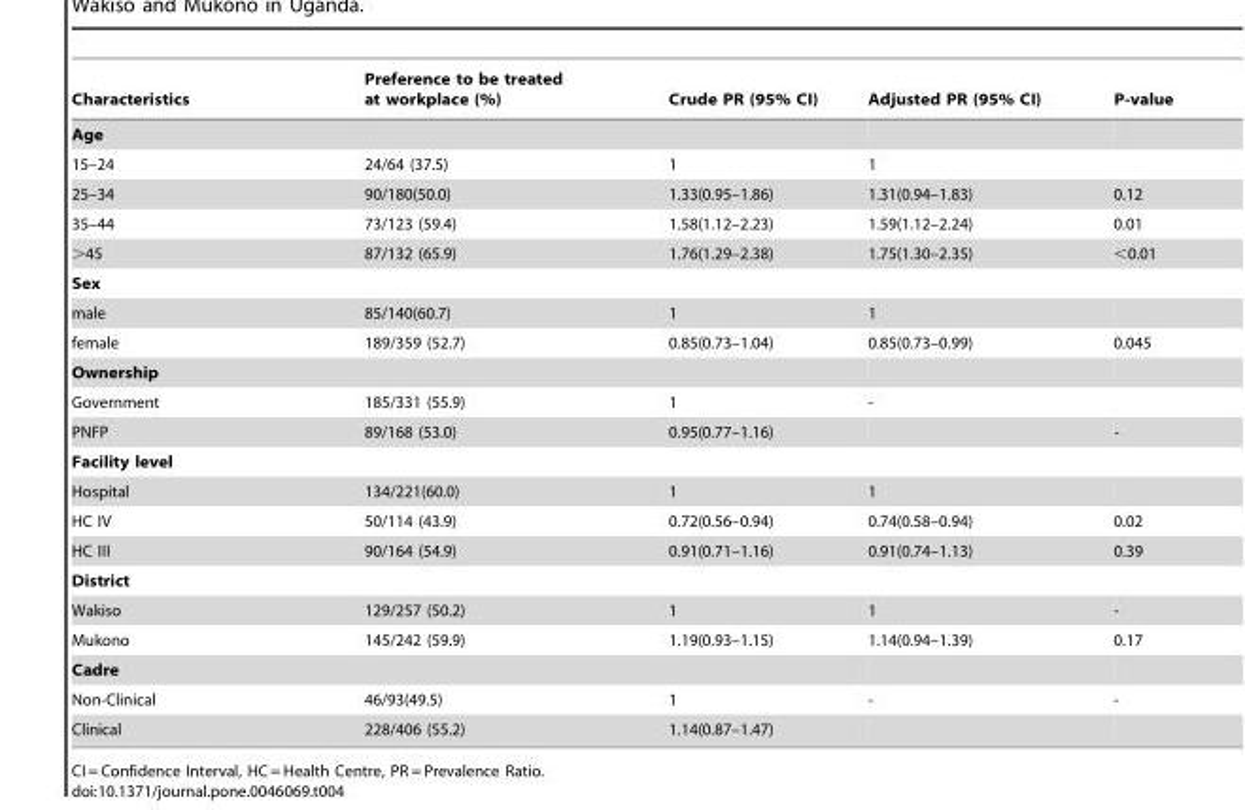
<table><thead><tr><td>Characteristics</td><td>Preference to be treated at workplace (%)</td><td>Crude PR (95% CI)</td><td>Adjusted PR (95% CI)</td><td>P-value</td></tr></thead><tbody><tr><td colspan="5">Age</td></tr><tr><td>15–24</td><td>24/64 (37.5)</td><td>1</td><td>1</td><td></td></tr><tr><td>25–34</td><td>90/180(50.0)</td><td>1.33(0.95–1.86)</td><td>1.31(0.94–1.83)</td><td>0.12</td></tr><tr><td>35–44</td><td>73/123 (59.4)</td><td>1.58(1.12–2.23)</td><td>1.59(1.12–2.24)</td><td>0.01</td></tr><tr><td>&gt;45</td><td>87/132 (65.9)</td><td>1.76(1.29–2.38)</td><td>1.75(1.30–2.35)</td><td>&lt;0.01</td></tr><tr><td colspan="5">Sex</td></tr><tr><td>male</td><td>85/140(60.7)</td><td>1</td><td>1</td><td></td></tr><tr><td>female</td><td>189/359 (52.7)</td><td>0.85(0.73–1.04)</td><td>0.85(0.73–0.99)</td><td>0.045</td></tr><tr><td colspan="5">Ownership</td></tr><tr><td>Government</td><td>185/331 (55.9)</td><td>1</td><td>-</td><td></td></tr><tr><td>PNFP</td><td>89/168 (53.0)</td><td>0.95(0.77–1.16)</td><td></td><td>-</td></tr><tr><td colspan="5">Facility level</td></tr><tr><td>Hospital</td><td>134/221(60.0)</td><td>1</td><td>1</td><td></td></tr><tr><td>HC IV</td><td>50/114 (43.9)</td><td>0.72(0.56–0.94)</td><td>0.74(0.58–0.94)</td><td>0.02</td></tr><tr><td>HC III</td><td>90/164 (54.9)</td><td>0.91(0.71–1.16)</td><td>0.91(0.74–1.13)</td><td>0.39</td></tr><tr><td colspan="5">District</td></tr><tr><td>Wakiso</td><td>129/257 (50.2)</td><td>1</td><td>1</td><td>-</td></tr><tr><td>Mukono</td><td>145/242 (59.9)</td><td>1.19(0.93–1.15)</td><td>1.14(0.94–1.39)</td><td>0.17</td></tr><tr><td colspan="5">Cadre</td></tr><tr><td>Non-Clinical</td><td>46/93(49.5)</td><td>1</td><td>-</td><td>-</td></tr><tr><td>Clinical</td><td>228/406 (55.2)</td><td>1.14(0.87–1.47)</td><td></td><td></td></tr></tbody></table>